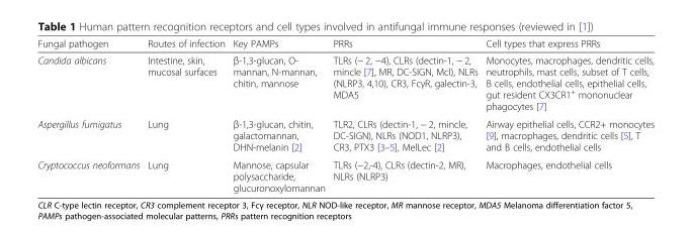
<table><thead><tr><td>Fungal pathogen</td><td>Routes of infection</td><td>Key PAMPs</td><td>PRRs</td><td>Cell types that express PRRs</td></tr></thead><tbody><tr><td>Candida albicans</td><td>Intestine, skin, mucosal surfaces</td><td>β-1,3-glucan, O- mannan, N-mannan, chitin, mannose</td><td>TLRs (− 2, −4), CLRs (dectin-1, − 2, mincle [7], MR, DC-SIGN, Mcl), NLRs (NLRP3, 4,10), CR3, FcγR, galectin-3, MDA5</td><td>Monocytes, macrophages, dendritic cells, neutrophils, mast cells, subset of T cells, B cells, endothelial cells, epithelial cells, gut resident CX3CR1<sup>+</sup> mononuclear phagocytes [7]</td></tr><tr><td>Aspergillus fumigatus</td><td>Lung</td><td>β-1,3-glucan, chitin, galactomannan, DHN-melanin [2]</td><td>TLR2, CLRs (dectin-1, − 2, mincle, DC-SIGN), NLRs (NOD1, NLRP3), CR3, PTX3 [3–5], MelLec [2]</td><td>Airway epithelial cells, CCR2+ monocytes [9], macrophages, dendritic cells [5], T and B cells, endothelial cells</td></tr><tr><td>Cryptococcus neoformans</td><td>Lung</td><td>Mannose, capsular polysaccharide, glucuronoxylomannan</td><td>TLRs (−2,-4), CLRs (dectin-2, MR), NLRs (NLRP3)</td><td>Macrophages, endothelial cells</td></tr></tbody></table>